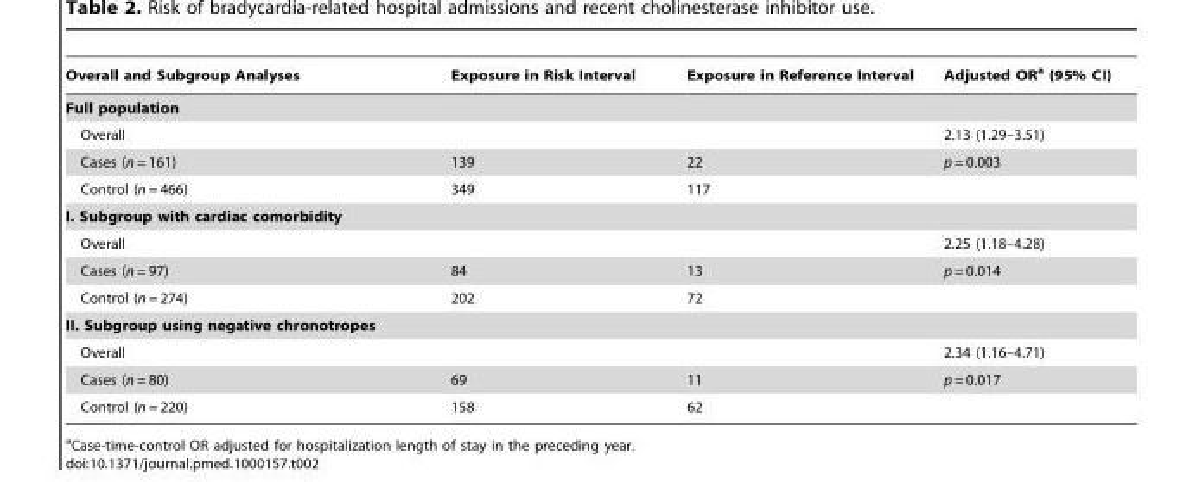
<table><thead><tr><td>Overall and Subgroup Analyses</td><td>Exposure in Risk Interval</td><td>Exposure in Reference Interval</td><td>Adjusted OR<sup>a</sup> (95% CI)</td></tr></thead><tbody><tr><td colspan="4">Full population</td></tr><tr><td>Overall</td><td></td><td></td><td>2.13 (1.29–3.51)</td></tr><tr><td>Cases (n = 161)</td><td>139</td><td>22</td><td>p = 0.003</td></tr><tr><td>Control (n = 466)</td><td>349</td><td>117</td><td></td></tr><tr><td colspan="4">I. Subgroup with cardiac comorbidity</td></tr><tr><td>Overall</td><td></td><td></td><td>2.25 (1.18–4.28)</td></tr><tr><td>Cases (n = 97)</td><td>84</td><td>13</td><td>p = 0.014</td></tr><tr><td>Control (n = 274)</td><td>202</td><td>72</td><td></td></tr><tr><td colspan="4">II. Subgroup using negative chronotropes</td></tr><tr><td>Overall</td><td></td><td></td><td>2.34 (1.16–4.71)</td></tr><tr><td>Cases (n = 80)</td><td>69</td><td>11</td><td>p = 0.017</td></tr><tr><td>Control (n = 220)</td><td>158</td><td>62</td><td></td></tr></tbody></table>